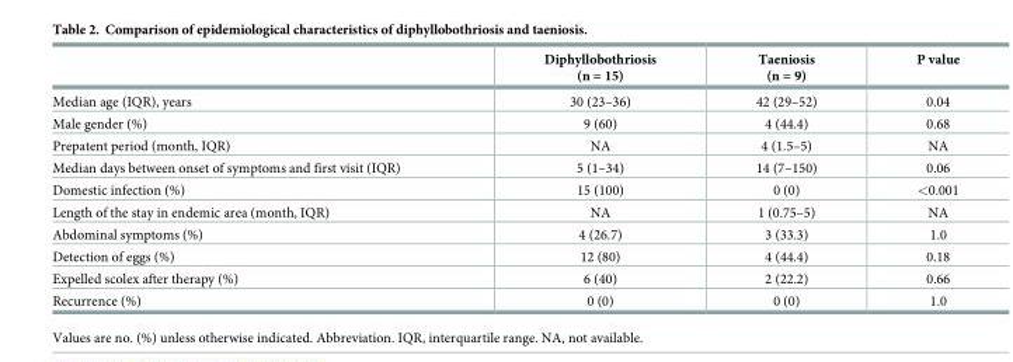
<table><thead><tr><td></td><td>Diphyllobothriosis (n = 15)</td><td>Taeniosis (n = 9)</td><td>P value</td></tr></thead><tbody><tr><td>Median age (IQR), years</td><td>30 (23–36)</td><td>42 (29–52)</td><td>0.04</td></tr><tr><td>Male gender (%)</td><td>9 (60)</td><td>4 (44.4)</td><td>0.68</td></tr><tr><td>Prepatent period (month, IQR)</td><td>NA</td><td>4 (1.5–5)</td><td>NA</td></tr><tr><td>Median days between onset of symptoms and first visit (IQR)</td><td>5 (1–34)</td><td>14 (7–150)</td><td>0.06</td></tr><tr><td>Domestic infection (%)</td><td>15 (100)</td><td>0 (0)</td><td>&lt;0.001</td></tr><tr><td>Length of the stay in endemic area (month, IQR)</td><td>NA</td><td>1 (0.75–5)</td><td>NA</td></tr><tr><td>Abdominal symptoms (%)</td><td>4 (26.7)</td><td>3 (33.3)</td><td>1.0</td></tr><tr><td>Detection of eggs (%)</td><td>12 (80)</td><td>4 (44.4)</td><td>0.18</td></tr><tr><td>Expelled scolex after therapy (%)</td><td>6 (40)</td><td>2 (22.2)</td><td>0.66</td></tr><tr><td>Recurrence (%)</td><td>0 (0)</td><td>0 (0)</td><td>1.0</td></tr></tbody></table>